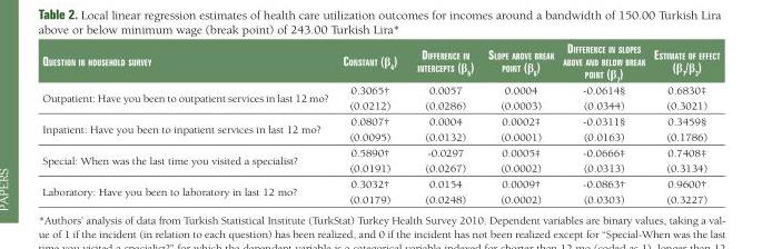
<table><thead><tr><td>Question in householD survey</td><td>Constant (β<sub>4</sub>)</td><td>DifferenCe in interCepts (β<sub>5</sub>)</td><td>slope above break point (β<sub>6</sub>)</td><td>DifferenCe in slopes above anD below break point (β<sub>7</sub>)</td><td>estimate of effeCt (β<sub>7</sub>/β<sub>3</sub>)</td></tr></thead><tbody><tr><td>Outpatient: Have you been to outpatient services in last 12 mo?</td><td>0.3065† (0.0212)</td><td>0.0057 (0.0286)</td><td>0.0004 (0.0003)</td><td>-0.0614§ (0.0344)</td><td>0.6830‡ (0.3021)</td></tr><tr><td>Inpatient: Have you been to inpatient services in last 12 mo?</td><td>0.0807† (0.0095)</td><td>0.0004 (0.0132)</td><td>0.0002‡ (0.0001)</td><td>-0.0311§ (0.0163)</td><td>0.3459§ (0.1786)</td></tr><tr><td>Special: When was the last time you visited a specialist?</td><td>0.5890† (0.0191)</td><td>-0.0297 (0.0267)</td><td>0.0005‡ (0.0002)</td><td>-0.0666‡ (0.0313)</td><td>0.7408‡ (0.3134)</td></tr><tr><td>Laboratory: Have you been to laboratory in last 12 mo?</td><td>0.3032† (0.0179)</td><td>0.0154 (0.0248)</td><td>0.0009† (0.0002)</td><td>-0.0863† (0.0303)</td><td>0.9600† (0.3227)</td></tr></tbody></table>